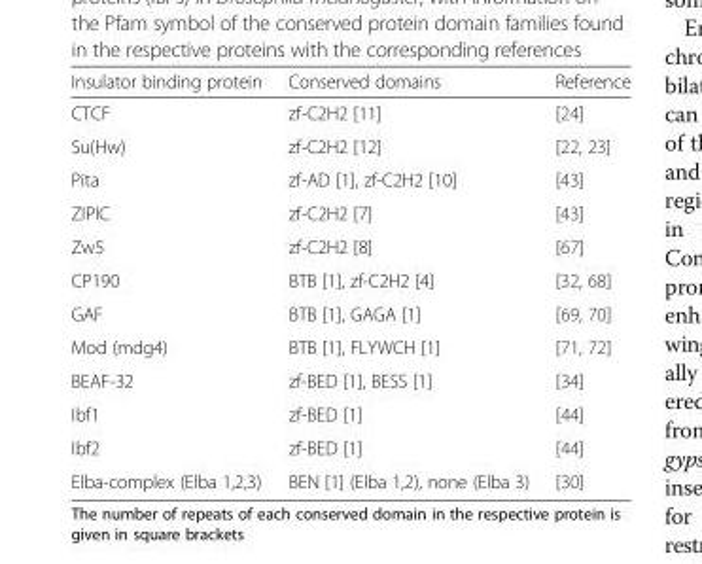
<table><thead><tr><td>Insulator binding protein</td><td>Conserved domains</td><td>Reference</td></tr></thead><tbody><tr><td>CTCF</td><td>zf-C2H2 [11]</td><td>[24]</td></tr><tr><td>Su(Hw)</td><td>zf-C2H2 [12]</td><td>[22, 23]</td></tr><tr><td>Pita</td><td>zf-AD [1], zf-C2H2 [10]</td><td>[43]</td></tr><tr><td>ZIPIC</td><td>zf-C2H2 [7]</td><td>[43]</td></tr><tr><td>Zw5</td><td>zf-C2H2 [8]</td><td>[67]</td></tr><tr><td>CP190</td><td>BTB [1], zf-C2H2 [4]</td><td>[32, 68]</td></tr><tr><td>GAF</td><td>BTB [1], GAGA [1]</td><td>[69, 70]</td></tr><tr><td>Mod (mdg4)</td><td>BTB [1], FLYWCH [1]</td><td>[71, 72]</td></tr><tr><td>BEAF-32</td><td>zf-BED [1], BESS [1]</td><td>[34]</td></tr><tr><td>Ibf1</td><td>zf-BED [1]</td><td>[44]</td></tr><tr><td>Ibf2</td><td>zf-BED [1]</td><td>[44]</td></tr><tr><td>Elba-complex (Elba 1,2,3)</td><td>BEN [1] (Elba 1,2), none (Elba 3)</td><td>[30]</td></tr></tbody></table>